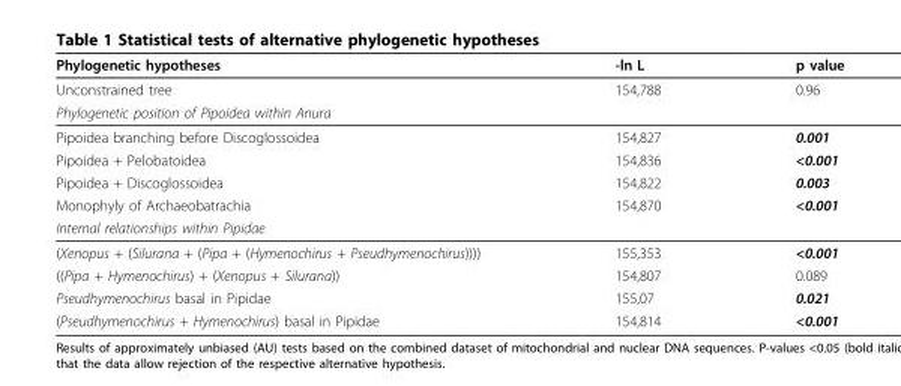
<table><thead><tr><td>Phylogenetic hypotheses</td><td>-ln L</td><td>p value</td></tr></thead><tbody><tr><td>Unconstrained tree</td><td>154,788</td><td>0.96</td></tr><tr><td colspan="3">Phylogenetic position of Pipoidea within Anura</td></tr><tr><td>Pipoidea branching before Discoglossoidea</td><td>154,827</td><td>0.001</td></tr><tr><td>Pipoidea + Pelobatoidea</td><td>154,836</td><td>&lt;0.001</td></tr><tr><td>Pipoidea + Discoglossoidea</td><td>154,822</td><td>0.003</td></tr><tr><td>Monophyly of Archaeobatrachia</td><td>154,870</td><td>&lt;0.001</td></tr><tr><td colspan="3">Internal relationships within Pipidae</td></tr><tr><td>(Xenopus + (Silurana + (Pipa + (Hymenochirus + Pseudhymenochirus))))</td><td>155,353</td><td>&lt;0.001</td></tr><tr><td>((Pipa + Hymenochirus) + (Xenopus + Silurana))</td><td>154,807</td><td>0.089</td></tr><tr><td>Pseudhymenochirus basal in Pipidae</td><td>155,07</td><td>0.021</td></tr><tr><td>(Pseudhymenochirus + Hymenochirus) basal in Pipidae</td><td>154,814</td><td>&lt;0.001</td></tr></tbody></table>